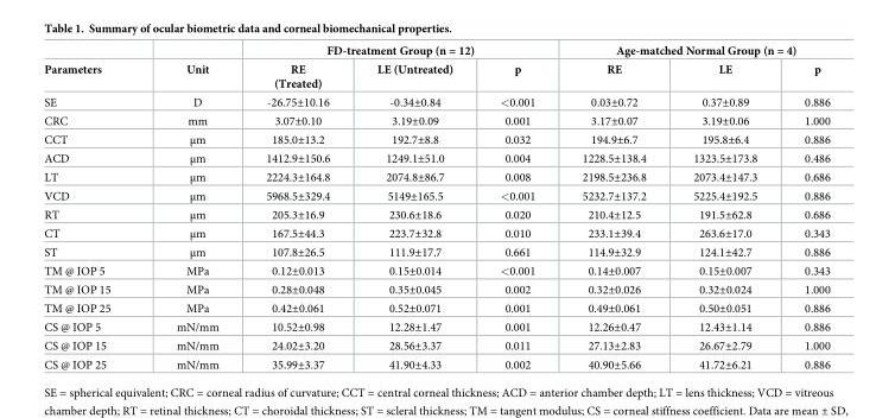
<table><thead><tr><td rowspan="2">Parameters</td><td rowspan="2">Unit</td><td colspan="3">FD-treatment Group (n = 12)</td><td colspan="3">Age-matched Normal Group (n = 4)</td></tr><tr><td>RE (Treated)</td><td>LE (Untreated)</td><td>p</td><td>RE</td><td>LE</td><td>p</td></tr></thead><tbody><tr><td>SE</td><td>D</td><td>-26.75±10.16</td><td>-0.34±0.84</td><td>&lt;0.001</td><td>0.03±0.72</td><td>0.37±0.89</td><td>0.886</td></tr><tr><td>CRC</td><td>mm</td><td>3.07±0.10</td><td>3.19±0.09</td><td>0.001</td><td>3.17±0.07</td><td>3.19±0.06</td><td>1.000</td></tr><tr><td>CCT</td><td>μm</td><td>185.0±13.2</td><td>192.7±8.8</td><td>0.032</td><td>194.9±6.7</td><td>195.8±6.4</td><td>0.886</td></tr><tr><td>ACD</td><td>μm</td><td>1412.9±150.6</td><td>1249.1±51.0</td><td>0.004</td><td>1228.5±138.4</td><td>1323.5±173.8</td><td>0.486</td></tr><tr><td>LT</td><td>μm</td><td>2224.3±164.8</td><td>2074.8±86.7</td><td>0.008</td><td>2198.5±236.8</td><td>2073.4±147.3</td><td>0.686</td></tr><tr><td>VCD</td><td>μm</td><td>5968.5±329.4</td><td>5149±165.5</td><td>&lt;0.001</td><td>5232.7±137.2</td><td>5225.4±192.5</td><td>0.886</td></tr><tr><td>RT</td><td>μm</td><td>205.3±16.9</td><td>230.6±18.6</td><td>0.020</td><td>210.4±12.5</td><td>191.5±62.8</td><td>0.686</td></tr><tr><td>CT</td><td>μm</td><td>167.5±44.3</td><td>223.7±32.8</td><td>0.010</td><td>233.1±39.4</td><td>263.6±17.0</td><td>0.343</td></tr><tr><td>ST</td><td>μm</td><td>107.8±26.5</td><td>111.9±17.7</td><td>0.661</td><td>114.9±32.9</td><td>124.1±42.7</td><td>0.886</td></tr><tr><td>TM @ IOP 5</td><td>MPa</td><td>0.12±0.013</td><td>0.15±0.014</td><td>&lt;0.001</td><td>0.14±0.007</td><td>0.15±0.007</td><td>0.343</td></tr><tr><td>TM @ IOP 15</td><td>MPa</td><td>0.28±0.048</td><td>0.35±0.045</td><td>0.002</td><td>0.32±0.026</td><td>0.32±0.024</td><td>1.000</td></tr><tr><td>TM @ IOP 25</td><td>MPa</td><td>0.42±0.061</td><td>0.52±0.071</td><td>0.001</td><td>0.49±0.061</td><td>0.50±0.051</td><td>0.886</td></tr><tr><td>CS @ IOP 5</td><td>mN/mm</td><td>10.52±0.98</td><td>12.28±1.47</td><td>0.001</td><td>12.26±0.47</td><td>12.43±1.14</td><td>0.886</td></tr><tr><td>CS @ IOP 15</td><td>mN/mm</td><td>24.02±3.20</td><td>28.56±3.37</td><td>0.011</td><td>27.13±2.83</td><td>26.67±2.79</td><td>1.000</td></tr><tr><td>CS @ IOP 25</td><td>mN/mm</td><td>35.99±3.37</td><td>41.90±4.33</td><td>0.002</td><td>40.90±5.66</td><td>41.72±6.21</td><td>0.886</td></tr></tbody></table>